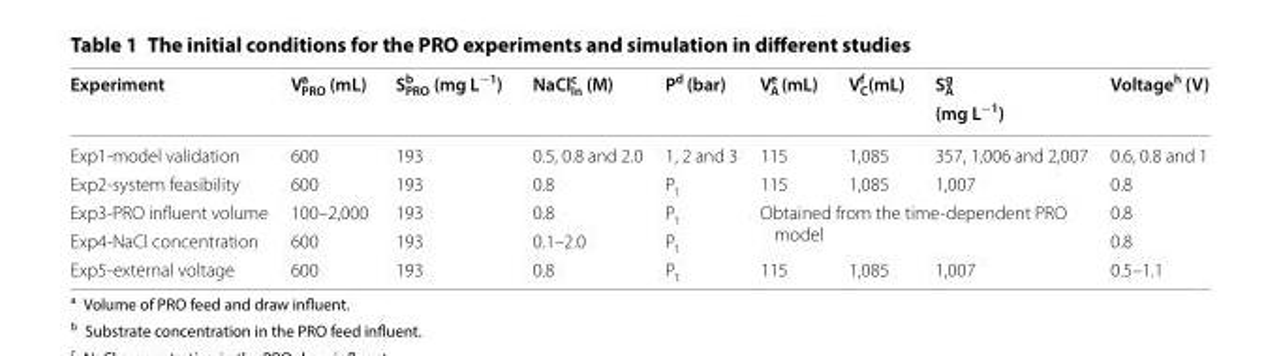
<table><thead><tr><td rowspan="2">Experiment</td><td rowspan="2">Va PRO (mL)</td><td rowspan="2">Sb PRO (mg L−1)</td><td rowspan="2">NaClc In (M)</td><td rowspan="2">P<sup>d</sup> (bar)</td><td rowspan="2">V<sub>A</sub> <sup>e</sup> (mL)</td><td rowspan="2">V<sub>C</sub> <sup>f</sup> (mL)</td><td rowspan="2">S<sub>A</sub> <sup>g</sup> (mg L<sup>−1</sup>)</td><td rowspan="2">Voltage<sup>h</sup> (V)</td></tr><tr></tr></thead><tbody><tr><td>Exp1‑model validation</td><td>600</td><td>193</td><td>0.5, 0.8 and 2.0</td><td>1, 2 and 3</td><td>115</td><td>1,085</td><td>357, 1,006 and 2,007</td><td>0.6, 0.8 and 1</td></tr><tr><td>Exp2‑system feasibility</td><td>600</td><td>193</td><td>0.8</td><td>P<sub>t</sub></td><td>115</td><td>1,085</td><td>1,007</td><td>0.8</td></tr><tr><td>Exp3‑PRO influent volume</td><td>100–2,000</td><td>193</td><td>0.8</td><td>P<sub>t</sub></td><td rowspan="2" colspan="3">Obtained from the time‑dependent PRO model</td><td>0.8</td></tr><tr><td>Exp4‑NaCl concentration</td><td>600</td><td>193</td><td>0.1–2.0</td><td>P<sub>t</sub></td><td>0.8</td></tr><tr><td>Exp5‑external voltage</td><td>600</td><td>193</td><td>0.8</td><td>P<sub>t</sub></td><td>115</td><td>1,085</td><td>1,007</td><td>0.5–1.1</td></tr></tbody></table>